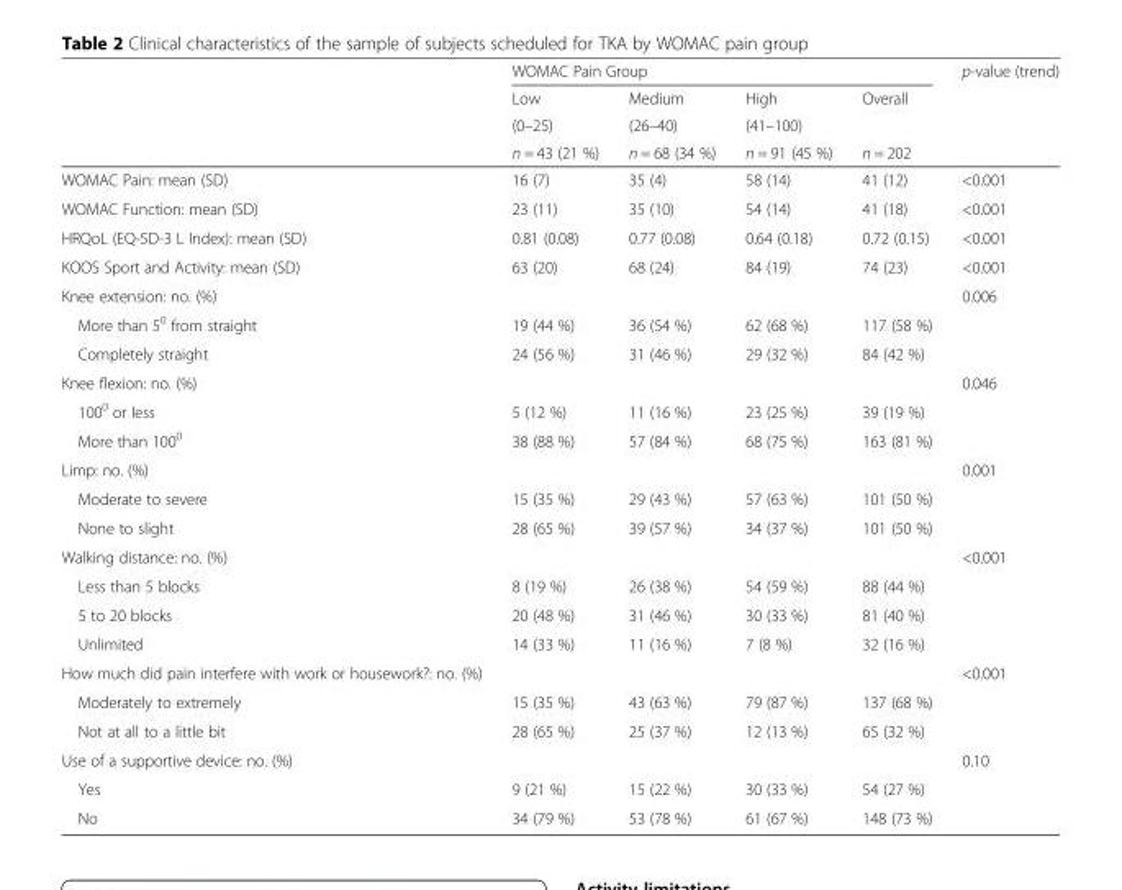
<table><thead><tr><td rowspan="4"></td><td colspan="4">WOMAC Pain Group</td><td rowspan="4">p-value (trend)</td></tr><tr><td rowspan="3">Low (0–25) n = 43 (21 %)</td><td rowspan="3">Medium (26–40) n = 68 (34 %)</td><td rowspan="3">High (41–100) n = 91 (45 %)</td><td rowspan="3">Overall n = 202</td></tr><tr></tr><tr></tr></thead><tbody><tr><td>WOMAC Pain: mean (SD)</td><td>16 (7)</td><td>35 (4)</td><td>58 (14)</td><td>41 (12)</td><td>&lt;0.001</td></tr><tr><td>WOMAC Function: mean (SD)</td><td>23 (11)</td><td>35 (10)</td><td>54 (14)</td><td>41 (18)</td><td>&lt;0.001</td></tr><tr><td>HRQoL (EQ-5D-3 L Index): mean (SD)</td><td>0.81 (0.08)</td><td>0.77 (0.08)</td><td>0.64 (0.18)</td><td>0.72 (0.15)</td><td>&lt;0.001</td></tr><tr><td>KOOS Sport and Activity: mean (SD)</td><td>63 (20)</td><td>68 (24)</td><td>84 (19)</td><td>74 (23)</td><td>&lt;0.001</td></tr><tr><td>Knee extension: no. (%)</td><td></td><td></td><td></td><td></td><td>0.006</td></tr><tr><td>More than 5<sup>0</sup> from straight</td><td>19 (44 %)</td><td>36 (54 %)</td><td>62 (68 %)</td><td>117 (58 %)</td><td></td></tr><tr><td>Completely straight</td><td>24 (56 %)</td><td>31 (46 %)</td><td>29 (32 %)</td><td>84 (42 %)</td><td></td></tr><tr><td>Knee flexion: no. (%)</td><td></td><td></td><td></td><td></td><td>0.046</td></tr><tr><td>100<sup>0</sup> or less</td><td>5 (12 %)</td><td>11 (16 %)</td><td>23 (25 %)</td><td>39 (19 %)</td><td></td></tr><tr><td>More than 100<sup>0</sup></td><td>38 (88 %)</td><td>57 (84 %)</td><td>68 (75 %)</td><td>163 (81 %)</td><td></td></tr><tr><td>Limp: no. (%)</td><td></td><td></td><td></td><td></td><td>0.001</td></tr><tr><td>Moderate to severe</td><td>15 (35 %)</td><td>29 (43 %)</td><td>57 (63 %)</td><td>101 (50 %)</td><td></td></tr><tr><td>None to slight</td><td>28 (65 %)</td><td>39 (57 %)</td><td>34 (37 %)</td><td>101 (50 %)</td><td></td></tr><tr><td>Walking distance: no. (%)</td><td></td><td></td><td></td><td></td><td>&lt;0.001</td></tr><tr><td>Less than 5 blocks</td><td>8 (19 %)</td><td>26 (38 %)</td><td>54 (59 %)</td><td>88 (44 %)</td><td></td></tr><tr><td>5 to 20 blocks</td><td>20 (48 %)</td><td>31 (46 %)</td><td>30 (33 %)</td><td>81 (40 %)</td><td></td></tr><tr><td>Unlimited</td><td>14 (33 %)</td><td>11 (16 %)</td><td>7 (8 %)</td><td>32 (16 %)</td><td></td></tr><tr><td>How much did pain interfere with work or housework?: no. (%)</td><td></td><td></td><td></td><td></td><td>&lt;0.001</td></tr><tr><td>Moderately to extremely</td><td>15 (35 %)</td><td>43 (63 %)</td><td>79 (87 %)</td><td>137 (68 %)</td><td></td></tr><tr><td>Not at all to a little bit</td><td>28 (65 %)</td><td>25 (37 %)</td><td>12 (13 %)</td><td>65 (32 %)</td><td></td></tr><tr><td>Use of a supportive device: no. (%)</td><td></td><td></td><td></td><td></td><td>0.10</td></tr><tr><td>Yes</td><td>9 (21 %)</td><td>15 (22 %)</td><td>30 (33 %)</td><td>54 (27 %)</td><td></td></tr><tr><td>No</td><td>34 (79 %)</td><td>53 (78 %)</td><td>61 (67 %)</td><td>148 (73 %)</td><td></td></tr></tbody></table>